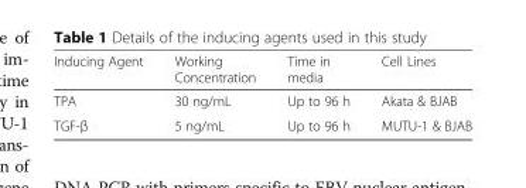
<table><thead><tr><td>Inducing Agent</td><td>Working Concentration</td><td>Time in media</td><td>Cell Lines</td></tr></thead><tbody><tr><td>TPA</td><td>30 ng/mL</td><td>Up to 96 h</td><td>Akata &amp; BJAB</td></tr><tr><td>TGF-β</td><td>5 ng/mL</td><td>Up to 96 h</td><td>MUTU-1 &amp; BJAB</td></tr></tbody></table>